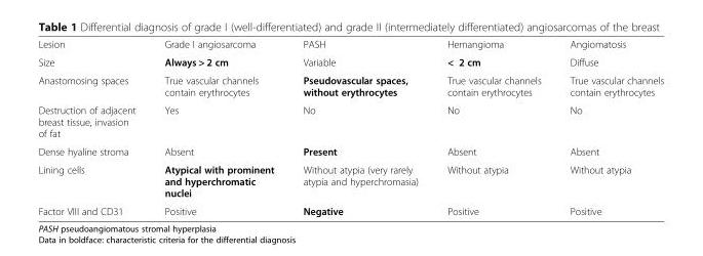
<table><tbody><tr><td>Lesion</td><td>Grade I angiosarcoma</td><td>PASH</td><td>Hemangioma</td><td>Angiomatosis</td></tr><tr><td>Size</td><td>Always &gt; 2 cm</td><td>Variable</td><td>&lt; 2 cm</td><td>Diffuse</td></tr><tr><td>Anastomosing spaces</td><td>True vascular channels contain erythrocytes</td><td>Pseudovascular spaces, without erythrocytes</td><td>True vascular channels contain erythrocytes</td><td>True vascular channels contain erythrocytes</td></tr><tr><td>Destruction of adjacent breast tissue, invasion of fat</td><td>Yes</td><td>No</td><td>No</td><td>No</td></tr><tr><td>Dense hyaline stroma</td><td>Absent</td><td>Present</td><td>Absent</td><td>Absent</td></tr><tr><td>Lining cells</td><td>Atypical with prominent and hyperchromatic nuclei</td><td>Without atypia (very rarely atypia and hyperchromasia)</td><td>Without atypia</td><td>Without atypia</td></tr><tr><td>Factor VIII and CD31</td><td>Positive</td><td>Negative</td><td>Positive</td><td>Positive</td></tr></tbody></table>